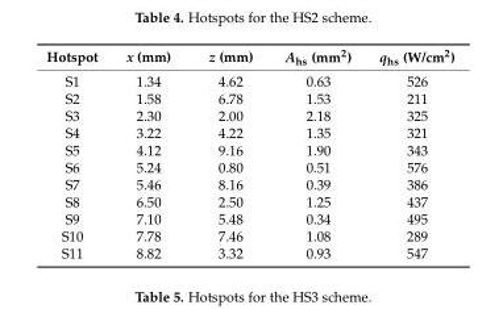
<table><thead><tr><td>Hotspot</td><td>x (mm)</td><td>z (mm)</td><td>A<sub>hs</sub> (mm<sup>2</sup>)</td><td>q<sub>hs</sub> (W/cm<sup>2</sup>)</td></tr></thead><tbody><tr><td>S1</td><td>1.34</td><td>4.62</td><td>0.63</td><td>526</td></tr><tr><td>S2</td><td>1.58</td><td>6.78</td><td>1.53</td><td>211</td></tr><tr><td>S3</td><td>2.30</td><td>2.00</td><td>2.18</td><td>325</td></tr><tr><td>S4</td><td>3.22</td><td>4.22</td><td>1.35</td><td>321</td></tr><tr><td>S5</td><td>4.12</td><td>9.16</td><td>1.90</td><td>343</td></tr><tr><td>S6</td><td>5.24</td><td>0.80</td><td>0.51</td><td>576</td></tr><tr><td>S7</td><td>5.46</td><td>8.16</td><td>0.39</td><td>386</td></tr><tr><td>S8</td><td>6.50</td><td>2.50</td><td>1.25</td><td>437</td></tr><tr><td>S9</td><td>7.10</td><td>5.48</td><td>0.34</td><td>495</td></tr><tr><td>S10</td><td>7.78</td><td>7.46</td><td>1.08</td><td>289</td></tr><tr><td>S11</td><td>8.82</td><td>3.32</td><td>0.93</td><td>547</td></tr></tbody></table>